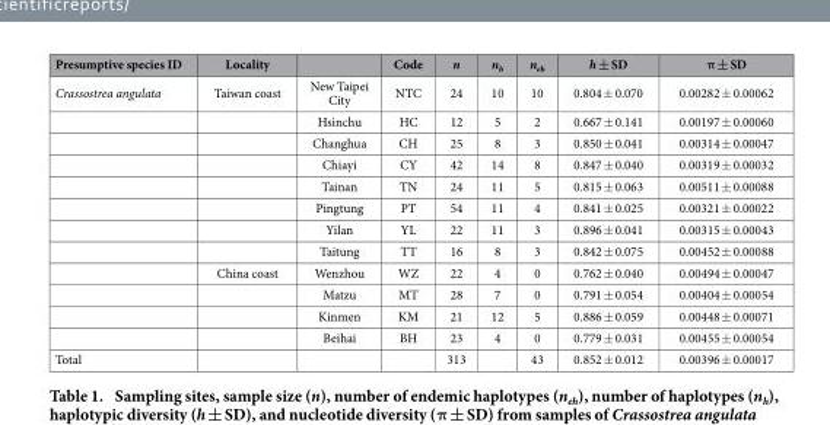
<table><thead><tr><td>Presumptive species ID</td><td>Locality</td><td></td><td>Code</td><td>n</td><td>n<sub>h</sub></td><td>n<sub>eh</sub></td><td>h ± SD</td><td>π ± SD</td></tr></thead><tbody><tr><td rowspan="12">Crassostrea angulata</td><td>Taiwan coast</td><td>New Taipei City</td><td>NTC</td><td>24</td><td>10</td><td>10</td><td>0.804 ± 0.070</td><td>0.00282 ± 0.00062</td></tr><tr><td></td><td>Hsinchu</td><td>HC</td><td>12</td><td>5</td><td>2</td><td>0.667 ± 0.141</td><td>0.00197 ± 0.00060</td></tr><tr><td></td><td>Changhua</td><td>CH</td><td>25</td><td>8</td><td>3</td><td>0.850 ± 0.041</td><td>0.00314 ± 0.00047</td></tr><tr><td></td><td>Chiayi</td><td>CY</td><td>42</td><td>14</td><td>8</td><td>0.847 ± 0.040</td><td>0.00319 ± 0.00032</td></tr><tr><td></td><td>Tainan</td><td>TN</td><td>24</td><td>11</td><td>5</td><td>0.815 ± 0.063</td><td>0.00511 ± 0.00088</td></tr><tr><td></td><td>Pingtung</td><td>PT</td><td>54</td><td>11</td><td>4</td><td>0.841 ± 0.025</td><td>0.00321 ± 0.00022</td></tr><tr><td></td><td>Yilan</td><td>YL</td><td>22</td><td>11</td><td>3</td><td>0.896 ± 0.041</td><td>0.00315 ± 0.00043</td></tr><tr><td></td><td>Taitung</td><td>TT</td><td>16</td><td>8</td><td>3</td><td>0.842 ± 0.075</td><td>0.00452 ± 0.00088</td></tr><tr><td>China coast</td><td>Wenzhou</td><td>WZ</td><td>22</td><td>4</td><td>0</td><td>0.762 ± 0.040</td><td>0.00494 ± 0.00047</td></tr><tr><td></td><td>Matzu</td><td>MT</td><td>28</td><td>7</td><td>0</td><td>0.791 ± 0.054</td><td>0.00404 ± 0.00054</td></tr><tr><td></td><td>Kinmen</td><td>KM</td><td>21</td><td>12</td><td>5</td><td>0.886 ± 0.059</td><td>0.00448 ± 0.00071</td></tr><tr><td></td><td>Beihai</td><td>BH</td><td>23</td><td>4</td><td>0</td><td>0.779 ± 0.031</td><td>0.00455 ± 0.00054</td></tr><tr><td>Total</td><td></td><td></td><td></td><td>313</td><td></td><td>43</td><td>0.852 ± 0.012</td><td>0.00396 ± 0.00017</td></tr></tbody></table>